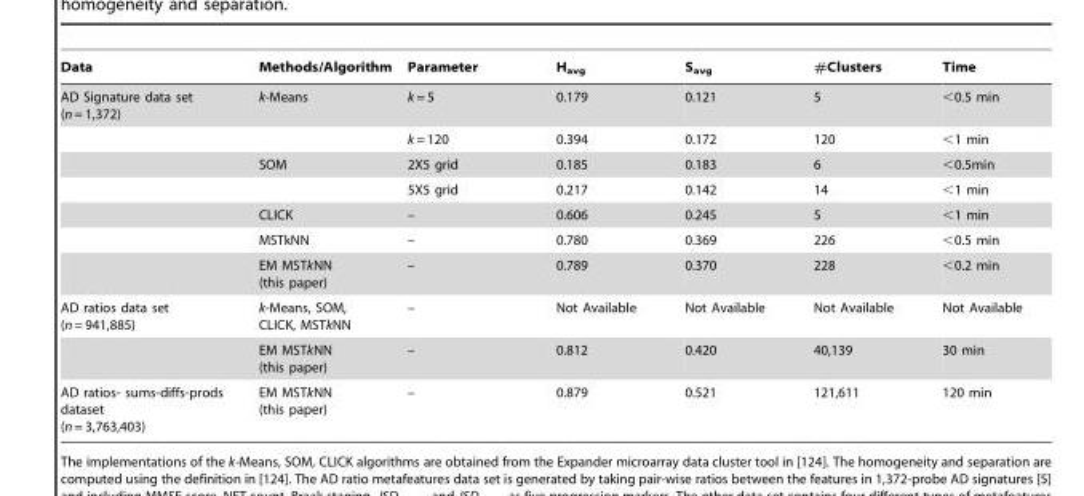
<table><thead><tr><td>Data</td><td>Methods/Algorithm</td><td>Parameter</td><td>H<sub>avg</sub></td><td>S<sub>avg</sub></td><td>#Clusters</td><td>Time</td></tr></thead><tbody><tr><td rowspan="7">AD Signature data set (n = 1,372)</td><td>k-Means</td><td>k = 5</td><td>0.179</td><td>0.121</td><td>5</td><td>&lt;0.5 min</td></tr><tr><td></td><td>k = 120</td><td>0.394</td><td>0.172</td><td>120</td><td>&lt;1 min</td></tr><tr><td>SOM</td><td>2X5 grid</td><td>0.185</td><td>0.183</td><td>6</td><td>&lt;0.5min</td></tr><tr><td></td><td>5X5 grid</td><td>0.217</td><td>0.142</td><td>14</td><td>&lt;1 min</td></tr><tr><td>CLICK</td><td>–</td><td>0.606</td><td>0.245</td><td>5</td><td>&lt;1 min</td></tr><tr><td>MSTkNN</td><td>–</td><td>0.780</td><td>0.369</td><td>226</td><td>&lt;0.5 min</td></tr><tr><td>EM MSTkNN (this paper)</td><td>–</td><td>0.789</td><td>0.370</td><td>228</td><td>&lt;0.2 min</td></tr><tr><td rowspan="2">AD ratios data set (n = 941,885)</td><td>k-Means, SOM, CLICK, MSTkNN</td><td>–</td><td>Not Available</td><td>Not Available</td><td>Not Available</td><td>Not Available</td></tr><tr><td>EM MSTkNN (this paper)</td><td>–</td><td>0.812</td><td>0.420</td><td>40,139</td><td>30 min</td></tr><tr><td>AD ratios- sums-diffs-prods dataset (n = 3,763,403)</td><td>EM MSTkNN (this paper)</td><td>–</td><td>0.879</td><td>0.521</td><td>121,611</td><td>120 min</td></tr></tbody></table>